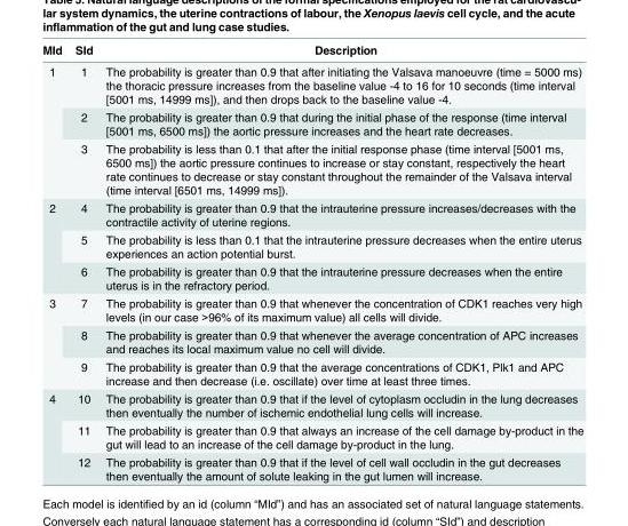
<table><thead><tr><td>MId</td><td>SId</td><td>Description</td></tr></thead><tbody><tr><td rowspan="3">1</td><td>1</td><td>The probability is greater than 0.9 that after initiating the Valsava manoeuvre (time = 5000 ms) the thoracic pressure increases from the baseline value -4 to 16 for 10 seconds (time interval [5001 ms, 14999 ms]), and then drops back to the baseline value -4.</td></tr><tr><td>2</td><td>The probability is greater than 0.9 that during the initial phase of the response (time interval [5001 ms, 6500 ms]) the aortic pressure increases and the heart rate decreases.</td></tr><tr><td>3</td><td>The probability is less than 0.1 that after the initial response phase (time interval [5001 ms, 6500 ms]) the aortic pressure continues to increase or stay constant, respectively the heart rate continues to decrease or stay constant throughout the remainder of the Valsava interval (time interval [6501 ms, 14999 ms]).</td></tr><tr><td rowspan="3">2</td><td>4</td><td>The probability is greater than 0.9 that the intrauterine pressure increases/decreases with the contractile activity of uterine regions.</td></tr><tr><td>5</td><td>The probability is less than 0.1 that the intrauterine pressure decreases when the entire uterus experiences an action potential burst.</td></tr><tr><td>6</td><td>The probability is greater than 0.9 that the intrauterine pressure decreases when the entire uterus is in the refractory period.</td></tr><tr><td rowspan="3">3</td><td>7</td><td>The probability is greater than 0.9 that whenever the concentration of CDK1 reaches very high levels (in our case &gt;96% of its maximum value) all cells will divide.</td></tr><tr><td>8</td><td>The probability is greater than 0.9 that whenever the average concentration of APC increases and reaches its local maximum value no cell will divide.</td></tr><tr><td>9</td><td>The probability is greater than 0.9 that the average concentrations of CDK1, Plk1 and APC increase and then decrease (i.e. oscillate) over time at least three times.</td></tr><tr><td rowspan="3">4</td><td>10</td><td>The probability is greater than 0.9 that if the level of cytoplasm occludin in the lung decreases then eventually the number of ischemic endothelial lung cells will increase.</td></tr><tr><td>11</td><td>The probability is greater than 0.9 that always an increase of the cell damage by-product in the gut will lead to an increase of the cell damage by-product in the lung.</td></tr><tr><td>12</td><td>The probability is greater than 0.9 that if the level of cell wall occludin in the gut decreases then eventually the amount of solute leaking in the gut lumen will increase.</td></tr></tbody></table>